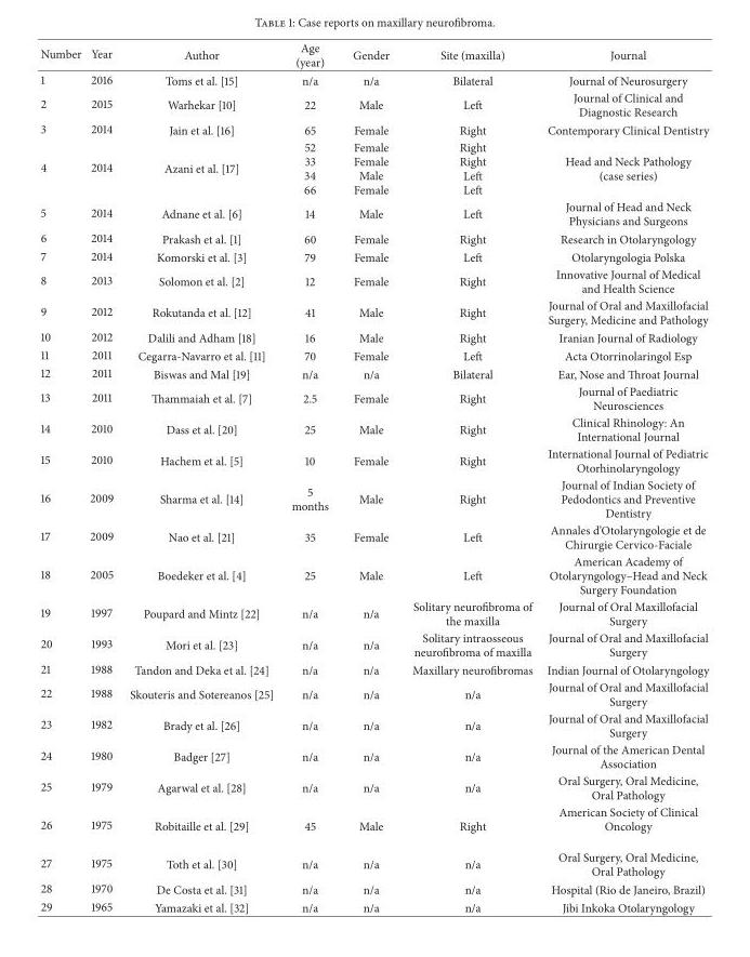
<table><thead><tr><td>Number</td><td>Year</td><td>Author</td><td>Age (year)</td><td>Gender</td><td>Site (maxilla)</td><td>Journal</td></tr></thead><tbody><tr><td>1</td><td>2016</td><td>Toms et al. [15]</td><td>n/a</td><td>n/a</td><td>Bilateral</td><td>Journal of Neurosurgery</td></tr><tr><td>2</td><td>2015</td><td>Warhekar [10]</td><td>22</td><td>Male</td><td>Left</td><td>Journal of Clinical and Diagnostic Research</td></tr><tr><td>3</td><td>2014</td><td>Jain et al. [16]</td><td>65</td><td>Female</td><td>Right</td><td>Contemporary Clinical Dentistry</td></tr><tr><td>4</td><td>2014</td><td>Azani et al. [17]</td><td>52 33 34 66</td><td>Female Female Male Female</td><td>Right Right Left Left</td><td>Head and Neck Pathology (case series)</td></tr><tr><td>5</td><td>2014</td><td>Adnane et al. [6]</td><td>14</td><td>Male</td><td>Left</td><td>Journal of Head and Neck Physicians and Surgeons</td></tr><tr><td>6</td><td>2014</td><td>Prakash et al. [1]</td><td>60</td><td>Female</td><td>Right</td><td>Research in Otolaryngology</td></tr><tr><td>7</td><td>2014</td><td>Komorski et al. [3]</td><td>79</td><td>Female</td><td>Left</td><td>Otolaryngologia Polska</td></tr><tr><td>8</td><td>2013</td><td>Solomon et al. [2]</td><td>12</td><td>Female</td><td>Right</td><td>Innovative Journal of Medical and Health Science</td></tr><tr><td>9</td><td>2012</td><td>Rokutanda et al. [12]</td><td>41</td><td>Male</td><td>Right</td><td>Journal of Oral and Maxillofacial Surgery, Medicine and Pathology</td></tr><tr><td>10</td><td>2012</td><td>Dalili and Adham [18]</td><td>16</td><td>Male</td><td>Right</td><td>Iranian Journal of Radiology</td></tr><tr><td>11</td><td>2011</td><td>Cegarra-Navarro et al. [11]</td><td>70</td><td>Female</td><td>Left</td><td>Acta Otorrinolaringol Esp</td></tr><tr><td>12</td><td>2011</td><td>Biswas and Mal [19]</td><td>n/a</td><td>n/a</td><td>Bilateral</td><td>Ear, Nose and Throat Journal</td></tr><tr><td>13</td><td>2011</td><td>Thammaiah et al. [7]</td><td>2.5</td><td>Female</td><td>Right</td><td>Journal of Paediatric Neurosciences</td></tr><tr><td>14</td><td>2010</td><td>Dass et al. [20]</td><td>25</td><td>Male</td><td>Right</td><td>Clinical Rhinology: An International Journal</td></tr><tr><td>15</td><td>2010</td><td>Hachem et al. [5]</td><td>10</td><td>Female</td><td>Right</td><td>International Journal of Pediatric Otorhinolaryngology</td></tr><tr><td>16</td><td>2009</td><td>Sharma et al. [14]</td><td>5 months</td><td>Male</td><td>Right</td><td>Journal of Indian Society of Pedodontics and Preventive Dentistry</td></tr><tr><td>17</td><td>2009</td><td>Nao et al. [21]</td><td>35</td><td>Female</td><td>Left</td><td>Annales d’Otolaryngologie et de Chirurgie Cervico-Faciale</td></tr><tr><td>18</td><td>2005</td><td>Boedeker et al. [4]</td><td>25</td><td>Male</td><td>Left</td><td>American Academy of Otolaryngology–Head and Neck Surgery Foundation</td></tr><tr><td>19</td><td>1997</td><td>Poupard and Mintz [22]</td><td>n/a</td><td>n/a</td><td>Solitary neurofibroma of the maxilla</td><td>Journal of Oral Maxillofacial Surgery</td></tr><tr><td>20</td><td>1993</td><td>Mori et al. [23]</td><td>n/a</td><td>n/a</td><td>Solitary intraosseous neurofibroma of maxilla</td><td>Journal of Oral and Maxillofacial Surgery</td></tr><tr><td>21</td><td>1988</td><td>Tandon and Deka et al. [24]</td><td>n/a</td><td>n/a</td><td>Maxillary neurofibromas</td><td>Indian Journal of Otolaryngology</td></tr><tr><td>22</td><td>1988</td><td>Skouteris and Sotereanos [25]</td><td>n/a</td><td>n/a</td><td>n/a</td><td>Journal of Oral and Maxillofacial Surgery</td></tr><tr><td>23</td><td>1982</td><td>Brady et al. [26]</td><td>n/a</td><td>n/a</td><td>n/a</td><td>Journal of Oral and Maxillofacial Surgery</td></tr><tr><td>24</td><td>1980</td><td>Badger [27]</td><td>n/a</td><td>n/a</td><td>n/a</td><td>Journal of the American Dental Association</td></tr><tr><td>25</td><td>1979</td><td>Agarwal et al. [28]</td><td>n/a</td><td>n/a</td><td>n/a</td><td>Oral Surgery, Oral Medicine, Oral Pathology</td></tr><tr><td>26</td><td>1975</td><td>Robitaille et al. [29]</td><td>45</td><td>Male</td><td>Right</td><td>American Society of Clinical Oncology</td></tr><tr><td>27</td><td>1975</td><td>Toth et al. [30]</td><td>n/a</td><td>n/a</td><td>n/a</td><td>Oral Surgery, Oral Medicine, Oral Pathology</td></tr><tr><td>28</td><td>1970</td><td>De Costa et al. [31]</td><td>n/a</td><td>n/a</td><td>n/a</td><td>Hospital (Rio de Janeiro, Brazil)</td></tr><tr><td>29</td><td>1965</td><td>Yamazaki et al. [32]</td><td>n/a</td><td>n/a</td><td>n/a</td><td>Jibi Inkoka Otolaryngology</td></tr></tbody></table>